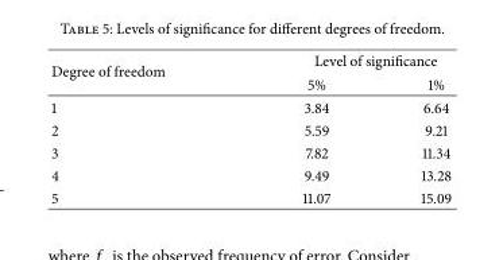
<table><thead><tr><td rowspan="2">Degree of freedom</td><td colspan="2">Level of significance</td></tr><tr><td>5%</td><td>1%</td></tr></thead><tbody><tr><td>1</td><td>3.84</td><td>6.64</td></tr><tr><td>2</td><td>5.59</td><td>9.21</td></tr><tr><td>3</td><td>7.82</td><td>11.34</td></tr><tr><td>4</td><td>9.49</td><td>13.28</td></tr><tr><td>5</td><td>11.07</td><td>15.09</td></tr></tbody></table>